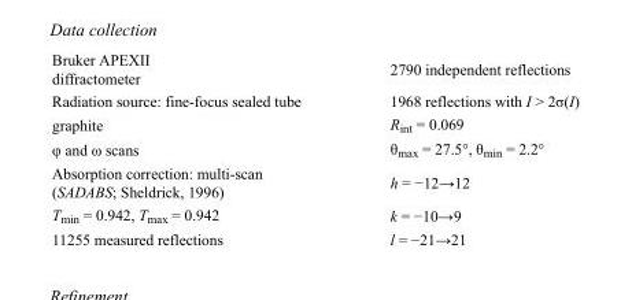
<table><tbody><tr><td>Bruker APEXII diffractometer</td><td>2790 independent reflections</td></tr><tr><td>Radiation source: fine-focus sealed tube</td><td>1968 reflections with I &gt; 2σ(I)</td></tr><tr><td>graphite</td><td>R<sub>int</sub> = 0.069</td></tr><tr><td>φ and ω scans</td><td>θ<sub>max</sub> = 27.5°, θ<sub>min</sub> = 2.2°</td></tr><tr><td>Absorption correction: multi-scan (SADABS; Sheldrick, 1996)</td><td>h = −12→12</td></tr><tr><td>T<sub>min</sub> = 0.942, T<sub>max</sub> = 0.942</td><td>k = −10→9</td></tr><tr><td>11255 measured reflections</td><td>l = −21→21</td></tr></tbody></table>